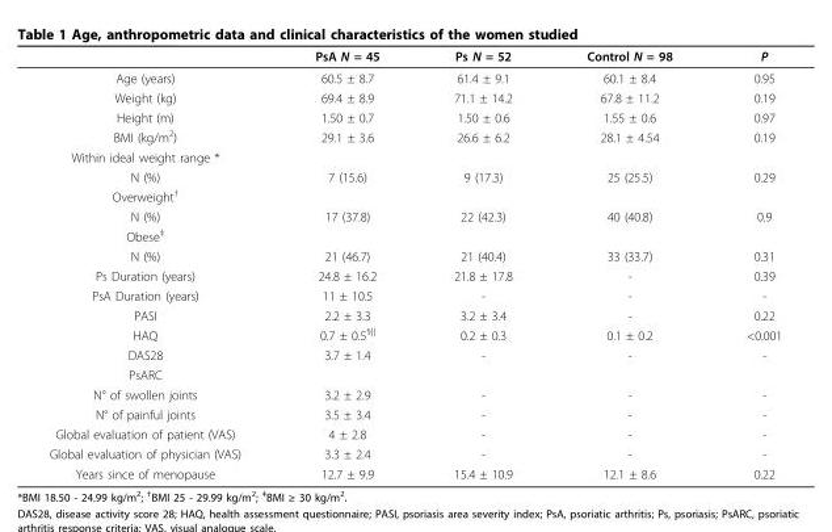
<table><thead><tr><td></td><td>PsA N = 45</td><td>Ps N = 52</td><td>Control N = 98</td><td>P</td></tr></thead><tbody><tr><td>Age (years)</td><td>60.5 ± 8.7</td><td>61.4 ± 9.1</td><td>60.1 ± 8.4</td><td>0.95</td></tr><tr><td>Weight (kg)</td><td>69.4 ± 8.9</td><td>71.1 ± 14.2</td><td>67.8 ± 11.2</td><td>0.19</td></tr><tr><td>Height (m)</td><td>1.50 ± 0.7</td><td>1.50 ± 0.6</td><td>1.55 ± 0.6</td><td>0.97</td></tr><tr><td>BMI (kg/m<sup>2</sup>)</td><td>29.1 ± 3.6</td><td>26.6 ± 6.2</td><td>28.1 ± 4.54</td><td>0.19</td></tr><tr><td colspan="5">Within ideal weight range *</td></tr><tr><td>N (%)</td><td>7 (15.6)</td><td>9 (17.3)</td><td>25 (25.5)</td><td>0.29</td></tr><tr><td colspan="5">Overweight<sup>†</sup></td></tr><tr><td>N (%)</td><td>17 (37.8)</td><td>22 (42.3)</td><td>40 (40.8)</td><td>0.9</td></tr><tr><td colspan="5">Obese<sup>‡</sup></td></tr><tr><td>N (%)</td><td>21 (46.7)</td><td>21 (40.4)</td><td>33 (33.7)</td><td>0.31</td></tr><tr><td>Ps Duration (years)</td><td>24.8 ± 16.2</td><td>21.8 ± 17.8</td><td>-</td><td>0.39</td></tr><tr><td>PsA Duration (years)</td><td>11 ± 10.5</td><td>-</td><td>-</td><td>-</td></tr><tr><td>PASI</td><td>2.2 ± 3.3</td><td>3.2 ± 3.4</td><td>-</td><td>0.22</td></tr><tr><td>HAQ</td><td>0.7 ± 0.5<sup>§||</sup></td><td>0.2 ± 0.3</td><td>0.1 ± 0.2</td><td>&lt;0.001</td></tr><tr><td>DAS28</td><td>3.7 ± 1.4</td><td>-</td><td>-</td><td>-</td></tr><tr><td colspan="5">PsARC</td></tr><tr><td>N° of swollen joints</td><td>3.2 ± 2.9</td><td>-</td><td>-</td><td>-</td></tr><tr><td>N° of painful joints</td><td>3.5 ± 3.4</td><td>-</td><td>-</td><td>-</td></tr><tr><td>Global evaluation of patient (VAS)</td><td>4 ± 2.8</td><td>-</td><td>-</td><td>-</td></tr><tr><td>Global evaluation of physician (VAS)</td><td>3.3 ± 2.4</td><td>-</td><td>-</td><td>-</td></tr><tr><td>Years since of menopause</td><td>12.7 ± 9.9</td><td>15.4 ± 10.9</td><td>12.1 ± 8.6</td><td>0.22</td></tr></tbody></table>